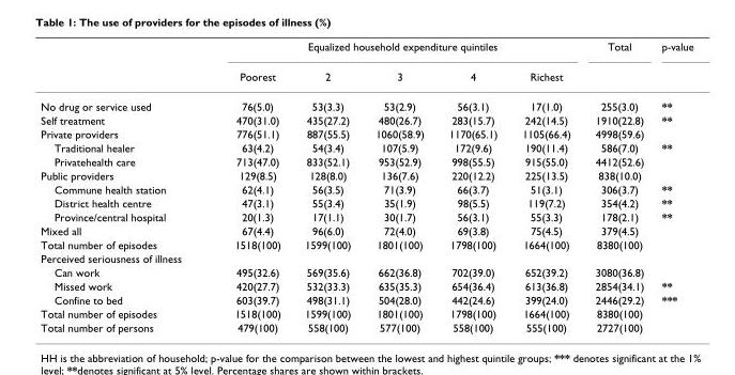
<table><thead><tr><td rowspan="2"></td><td colspan="5">Equalized household expenditure quintiles</td><td rowspan="2">Total</td><td rowspan="2">p-value</td></tr><tr><td>Poorest</td><td>2</td><td>3</td><td>4</td><td>Richest</td></tr></thead><tbody><tr><td>No drug or service used</td><td>76(5.0)</td><td>53(3.3)</td><td>53(2.9)</td><td>56(3.1)</td><td>17(1.0)</td><td>255(3.0)</td><td>**</td></tr><tr><td>Self treatment</td><td>470(31.0)</td><td>435(27.2)</td><td>480(26.7)</td><td>283(15.7)</td><td>242(14.5)</td><td>1910(22.8)</td><td>**</td></tr><tr><td>Private providers</td><td>776(51.1)</td><td>887(55.5)</td><td>1060(58.9)</td><td>1170(65.1)</td><td>1105(66.4)</td><td>4998(59.6)</td><td></td></tr><tr><td>Traditional healer</td><td>63(4.2)</td><td>54(3.4)</td><td>107(5.9)</td><td>172(9.6)</td><td>190(11.4)</td><td>586(7.0)</td><td>**</td></tr><tr><td>Privatehealth care</td><td>713(47.0)</td><td>833(52.1)</td><td>953(52.9)</td><td>998(55.5)</td><td>915(55.0)</td><td>4412(52.6)</td><td></td></tr><tr><td>Public providers</td><td>129(8.5)</td><td>128(8.0)</td><td>136(7.6)</td><td>220(12.2)</td><td>225(13.5)</td><td>838(10.0)</td><td></td></tr><tr><td>Commune health station</td><td>62(4.1)</td><td>56(3.5)</td><td>71(3.9)</td><td>66(3.7)</td><td>51(3.1)</td><td>306(3.7)</td><td>**</td></tr><tr><td>District health centre</td><td>47(3.1)</td><td>55(3.4)</td><td>35(1.9)</td><td>98(5.5)</td><td>119(7.2)</td><td>354(4.2)</td><td>**</td></tr><tr><td>Province/central hospital</td><td>20(1.3)</td><td>17(1.1)</td><td>30(1.7)</td><td>56(3.1)</td><td>55(3.3)</td><td>178(2.1)</td><td>**</td></tr><tr><td>Mixed all</td><td>67(4.4)</td><td>96(6.0)</td><td>72(4.0)</td><td>69(3.8)</td><td>75(4.5)</td><td>379(4.5)</td><td></td></tr><tr><td>Total number of episodes</td><td>1518(100)</td><td>1599(100)</td><td>1801(100)</td><td>1798(100)</td><td>1664(100)</td><td>8380(100)</td><td></td></tr><tr><td colspan="8">Perceived seriousness of illness</td></tr><tr><td>Can work</td><td>495(32.6)</td><td>569(35.6)</td><td>662(36.8)</td><td>702(39.0)</td><td>652(39.2)</td><td>3080(36.8)</td><td></td></tr><tr><td>Missed work</td><td>420(27.7)</td><td>532(33.3)</td><td>635(35.3)</td><td>654(36.4)</td><td>613(36.8)</td><td>2854(34.1)</td><td>**</td></tr><tr><td>Confine to bed</td><td>603(39.7)</td><td>498(31.1)</td><td>504(28.0)</td><td>442(24.6)</td><td>399(24.0)</td><td>2446(29.2)</td><td>***</td></tr><tr><td>Total number of episodes</td><td>1518(100)</td><td>1599(100)</td><td>1801(100)</td><td>1798(100)</td><td>1664(100)</td><td>8380(100)</td><td></td></tr><tr><td>Total number of persons</td><td>479(100)</td><td>558(100)</td><td>577(100)</td><td>558(100)</td><td>555(100)</td><td>2727(100)</td><td></td></tr></tbody></table>